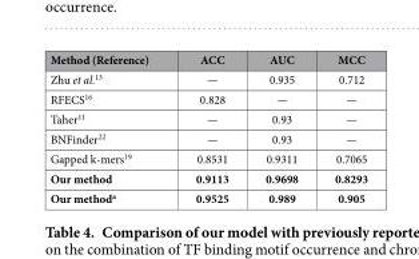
<table><thead><tr><td>Method (Reference)</td><td>ACC</td><td>AUC</td><td>MCC</td></tr></thead><tbody><tr><td>Zhu et al.<sup>13</sup></td><td>—</td><td>0.935</td><td>0.712</td></tr><tr><td>RFECS<sup>16</sup></td><td>0.828</td><td>—</td><td>—</td></tr><tr><td>Taher<sup>11</sup></td><td>—</td><td>0.93</td><td>—</td></tr><tr><td>BNFinder<sup>22</sup></td><td>—</td><td>0.93</td><td>—</td></tr><tr><td>Gapped k-mers<sup>19</sup></td><td>0.8531</td><td>0.9311</td><td>0.7065</td></tr><tr><td>Our method</td><td>0.9113</td><td>0.9698</td><td>0.8293</td></tr><tr><td>Our method<sup>a</sup></td><td>0.9525</td><td>0.989</td><td>0.905</td></tr></tbody></table>